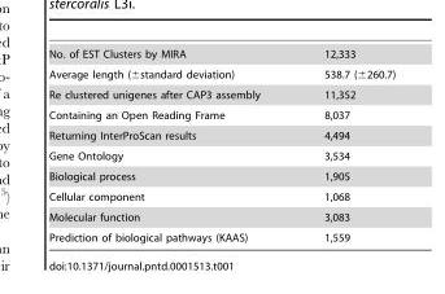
<table><tbody><tr><td>No. of EST Clusters by MIRA</td><td>12,333</td></tr><tr><td>Average length (±standard deviation)</td><td>538.7 (±260.7)</td></tr><tr><td>Re clustered unigenes after CAP3 assembly</td><td>11,352</td></tr><tr><td>Containing an Open Reading Frame</td><td>8,037</td></tr><tr><td>Returning InterProScan results</td><td>4,494</td></tr><tr><td>Gene Ontology</td><td>3,534</td></tr><tr><td>Biological process</td><td>1,905</td></tr><tr><td>Cellular component</td><td>1,068</td></tr><tr><td>Molecular function</td><td>3,083</td></tr><tr><td>Prediction of biological pathways (KAAS)</td><td>1,559</td></tr></tbody></table>